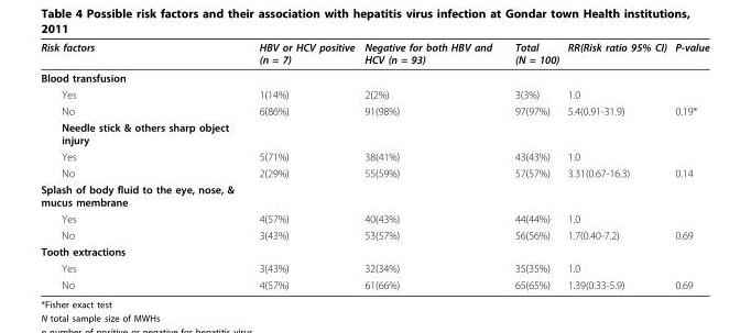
<table><thead><tr><td>Risk factors</td><td>HBV or HCV positive (n = 7)</td><td>Negative for both HBV and HCV (n = 93)</td><td>Total (N = 100)</td><td>RR(Risk ratio 95% CI)</td><td>P-value</td></tr></thead><tbody><tr><td colspan="6">Blood transfusion</td></tr><tr><td>Yes</td><td>1(14%)</td><td>2(2%)</td><td>3(3%)</td><td>1.0</td><td></td></tr><tr><td>No</td><td>6(86%)</td><td>91(98%)</td><td>97(97%)</td><td>5.4(0.91-31.9)</td><td>0.19*</td></tr><tr><td colspan="6">Needle stick &amp; others sharp object injury</td></tr><tr><td>Yes</td><td>5(71%)</td><td>38(41%)</td><td>43(43%)</td><td>1.0</td><td></td></tr><tr><td>No</td><td>2(29%)</td><td>55(59%)</td><td>57(57%)</td><td>3.31(0.67-16.3)</td><td>0.14</td></tr><tr><td colspan="6">Splash of body fluid to the eye, nose, &amp; mucus membrane</td></tr><tr><td>Yes</td><td>4(57%)</td><td>40(43%)</td><td>44(44%)</td><td>1.0</td><td></td></tr><tr><td>No</td><td>3(43%)</td><td>53(57%)</td><td>56(56%)</td><td>1.7(0.40-7.2)</td><td>0.69</td></tr><tr><td colspan="6">Tooth extractions</td></tr><tr><td>Yes</td><td>3(43%)</td><td>32(34%)</td><td>35(35%)</td><td>1.0</td><td></td></tr><tr><td>No</td><td>4(57%)</td><td>61(66%)</td><td>65(65%)</td><td>1.39(0.33-5.9)</td><td>0.69</td></tr></tbody></table>